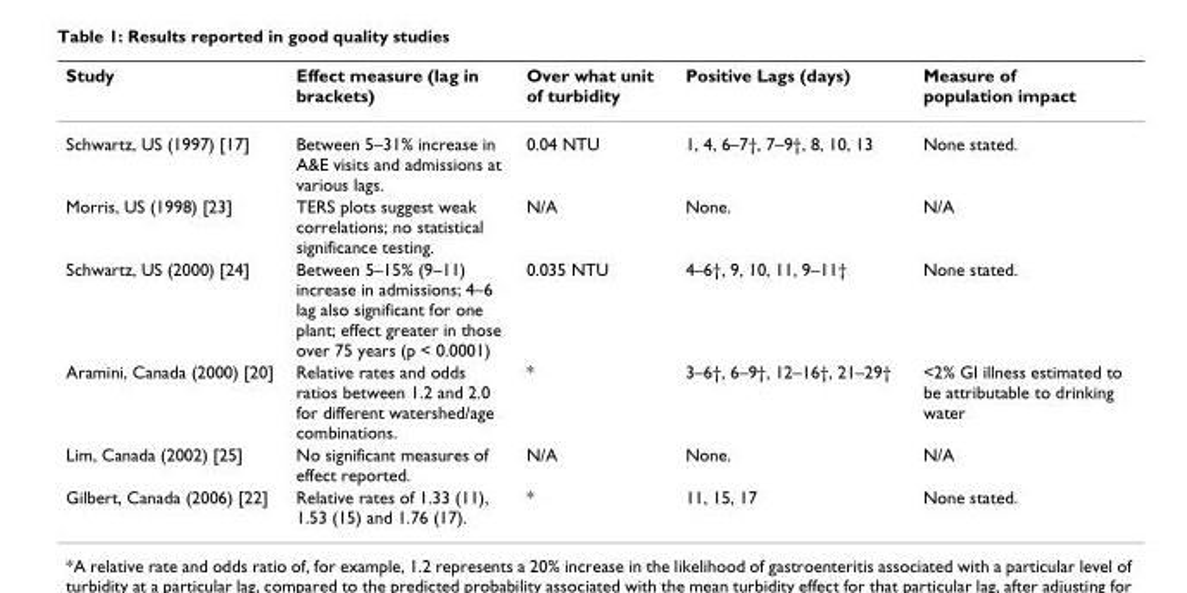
<table><thead><tr><td>Study</td><td>Effect measure (lag in brackets)</td><td>Over what unit of turbidity</td><td>Positive Lags (days)</td><td>Measure of population impact</td></tr></thead><tbody><tr><td>Schwartz, US (1997) [17]</td><td>Between 5–31% increase in A&amp;E visits and admissions at various lags.</td><td>0.04 NTU</td><td>1, 4, 6–7†, 7–9†, 8, 10, 13</td><td>None stated.</td></tr><tr><td>Morris, US (1998) [23]</td><td>TERS plots suggest weak correlations; no statistical significance testing.</td><td>N/A</td><td>None.</td><td>N/A</td></tr><tr><td>Schwartz, US (2000) [24]</td><td>Between 5–15% (9–11) increase in admissions; 4–6 lag also significant for one plant; effect greater in those over 75 years (p &lt; 0.0001)</td><td>0.035 NTU</td><td>4–6†, 9, 10, 11, 9–11†</td><td>None stated.</td></tr><tr><td>Aramini, Canada (2000) [20]</td><td>Relative rates and odds ratios between 1.2 and 2.0 for different watershed/age combinations.</td><td>*</td><td>3–6†, 6–9†, 12–16†, 21–29†</td><td>&lt;2% GI illness estimated to be attributable to drinking water</td></tr><tr><td>Lim, Canada (2002) [25]</td><td>No significant measures of effect reported.</td><td>N/A</td><td>None.</td><td>N/A</td></tr><tr><td>Gilbert, Canada (2006) [22]</td><td>Relative rates of 1.33 (11), 1.53 (15) and 1.76 (17).</td><td>*</td><td>11, 15, 17</td><td>None stated.</td></tr></tbody></table>